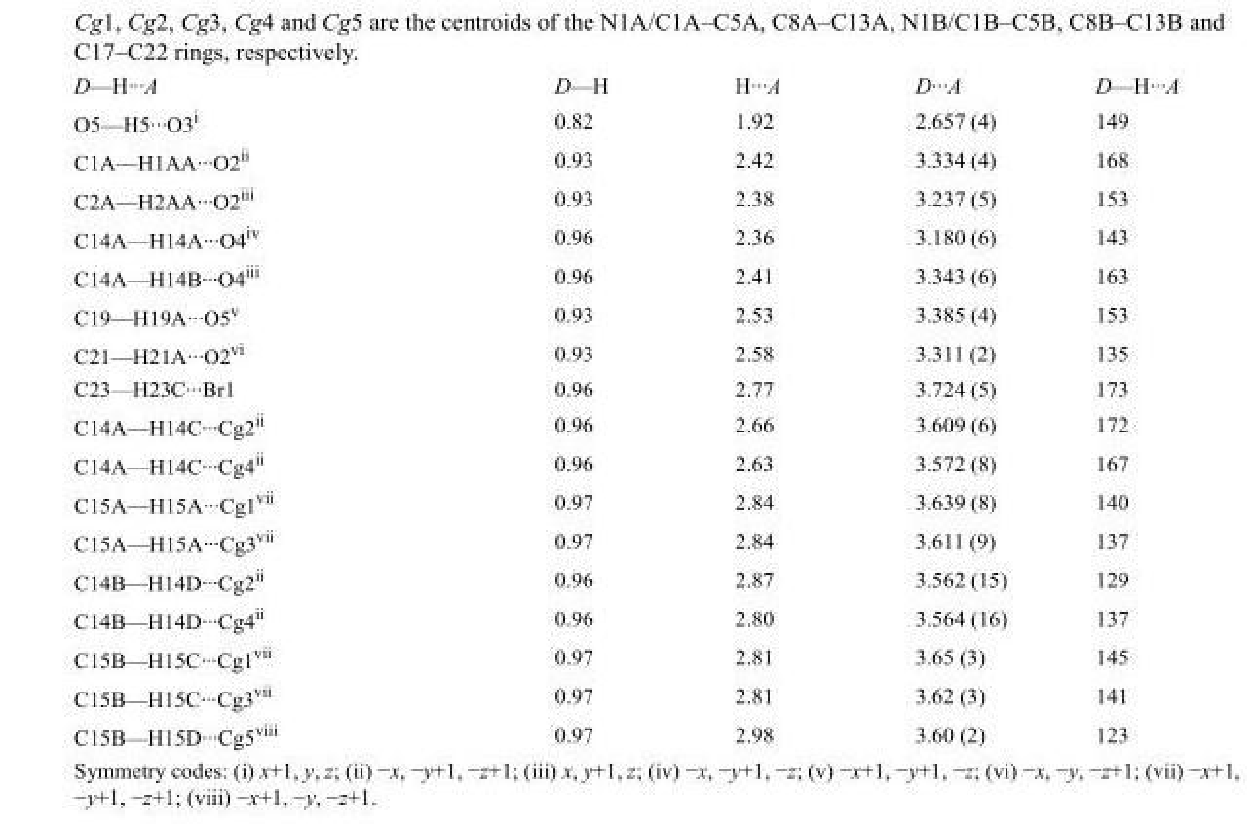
<table><tbody><tr><td>D—H···A</td><td>D—H</td><td>H···A</td><td>D···A</td><td>D—H···A</td></tr><tr><td>O5—H5···O3<sup>i</sup></td><td>0.82</td><td>1.92</td><td>2.657 (4)</td><td>149</td></tr><tr><td>C1A—H1AA···O2<sup>ii</sup></td><td>0.93</td><td>2.42</td><td>3.334 (4)</td><td>168</td></tr><tr><td>C2A—H2AA···O2<sup>iii</sup></td><td>0.93</td><td>2.38</td><td>3.237 (5)</td><td>153</td></tr><tr><td>C14A—H14A···O4<sup>iv</sup></td><td>0.96</td><td>2.36</td><td>3.180 (6)</td><td>143</td></tr><tr><td>C14A—H14B···O4<sup>iii</sup></td><td>0.96</td><td>2.41</td><td>3.343 (6)</td><td>163</td></tr><tr><td>C19—H19A···O5<sup>v</sup></td><td>0.93</td><td>2.53</td><td>3.385 (4)</td><td>153</td></tr><tr><td>C21—H21A···O2<sup>vi</sup></td><td>0.93</td><td>2.58</td><td>3.311 (2)</td><td>135</td></tr><tr><td>C23—H23C···Br1</td><td>0.96</td><td>2.77</td><td>3.724 (5)</td><td>173</td></tr><tr><td>C14A—H14C···Cg2<sup>ii</sup></td><td>0.96</td><td>2.66</td><td>3.609 (6)</td><td>172</td></tr><tr><td>C14A—H14C···Cg4<sup>ii</sup></td><td>0.96</td><td>2.63</td><td>3.572 (8)</td><td>167</td></tr><tr><td>C15A—H15A···Cg1<sup>vii</sup></td><td>0.97</td><td>2.84</td><td>3.639 (8)</td><td>140</td></tr><tr><td>C15A—H15A···Cg3<sup>vii</sup></td><td>0.97</td><td>2.84</td><td>3.611 (9)</td><td>137</td></tr><tr><td>C14B—H14D···Cg2<sup>ii</sup></td><td>0.96</td><td>2.87</td><td>3.562 (15)</td><td>129</td></tr><tr><td>C14B—H14D···Cg4<sup>ii</sup></td><td>0.96</td><td>2.80</td><td>3.564 (16)</td><td>137</td></tr><tr><td>C15B—H15C···Cg1<sup>vii</sup></td><td>0.97</td><td>2.81</td><td>3.65 (3)</td><td>145</td></tr><tr><td>C15B—H15C···Cg3<sup>vii</sup></td><td>0.97</td><td>2.81</td><td>3.62 (3)</td><td>141</td></tr><tr><td>C15B—H15D···Cg5<sup>viii</sup></td><td>0.97</td><td>2.98</td><td>3.60 (2)</td><td>123</td></tr></tbody></table>